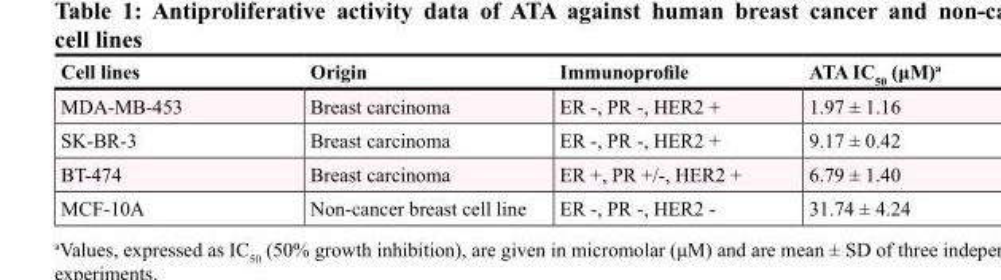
<table><thead><tr><td>Cell lines</td><td>Origin</td><td>Immunoprofile</td><td>ATA IC<sub>50</sub> (μM)<sup>a</sup></td></tr></thead><tbody><tr><td>MDA-MB-453</td><td>Breast carcinoma</td><td>ER -, PR -, HER2 +</td><td>1.97 ± 1.16</td></tr><tr><td>SK-BR-3</td><td>Breast carcinoma</td><td>ER -, PR -, HER2 +</td><td>9.17 ± 0.42</td></tr><tr><td>BT-474</td><td>Breast carcinoma</td><td>ER +, PR +/-, HER2 +</td><td>6.79 ± 1.40</td></tr><tr><td>MCF-10A</td><td>Non-cancer breast cell line</td><td>ER -, PR -, HER2 -</td><td>31.74 ± 4.24</td></tr></tbody></table>